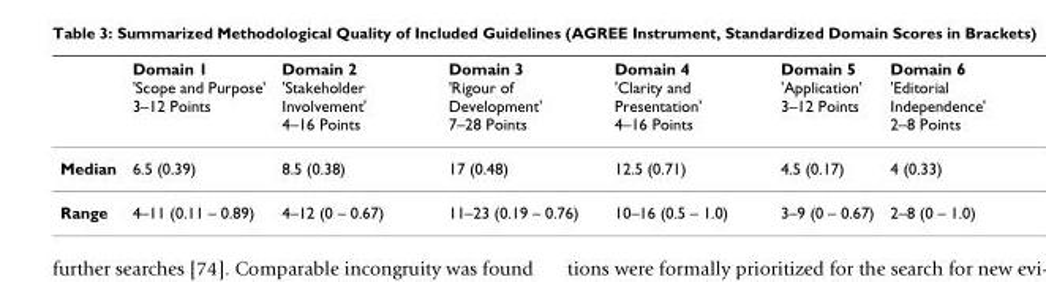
<table><thead><tr><td></td><td>Domain 1 &#x27;Scope and Purpose&#x27; 3–12 Points</td><td>Domain 2 &#x27;Stakeholder Involvement&#x27; 4–16 Points</td><td>Domain 3 &#x27;Rigour of Development&#x27; 7–28 Points</td><td>Domain 4 &#x27;Clarity and Presentation&#x27; 4–16 Points</td><td>Domain 5 &#x27;Application&#x27; 3–12 Points</td><td>Domain 6 &#x27;Editorial Independence&#x27; 2–8 Points</td></tr></thead><tbody><tr><td>Median</td><td>6.5 (0.39)</td><td>8.5 (0.38)</td><td>17 (0.48)</td><td>12.5 (0.71)</td><td>4.5 (0.17)</td><td>4 (0.33)</td></tr><tr><td>Range</td><td>4–11 (0.11 – 0.89)</td><td>4–12 (0 – 0.67)</td><td>11–23 (0.19 – 0.76)</td><td>10–16 (0.5 – 1.0)</td><td>3–9 (0 – 0.67)</td><td>2–8 (0 – 1.0)</td></tr></tbody></table>